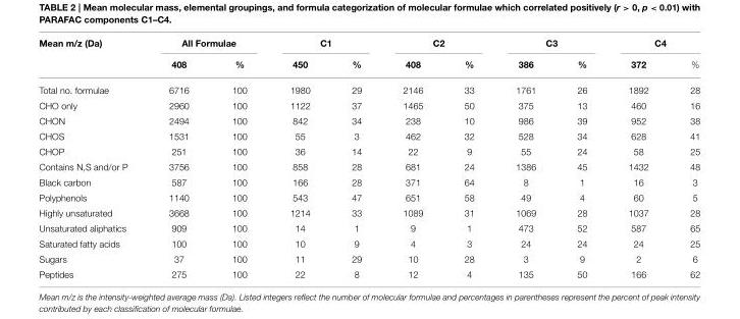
<table><thead><tr><td rowspan="2">Mean m/z (Da)</td><td colspan="2">All Formulae</td><td colspan="2">C1</td><td colspan="2">C2</td><td colspan="2">C3</td><td colspan="2">C4</td></tr><tr><td>408</td><td>%</td><td>450</td><td>%</td><td>408</td><td>%</td><td>386</td><td>%</td><td>372</td><td>%</td></tr></thead><tbody><tr><td>Total no. formulae</td><td>6716</td><td>100</td><td>1980</td><td>29</td><td>2146</td><td>33</td><td>1761</td><td>26</td><td>1892</td><td>28</td></tr><tr><td>CHO only</td><td>2960</td><td>100</td><td>1122</td><td>37</td><td>1465</td><td>50</td><td>375</td><td>13</td><td>460</td><td>16</td></tr><tr><td>CHON</td><td>2494</td><td>100</td><td>842</td><td>34</td><td>238</td><td>10</td><td>986</td><td>39</td><td>952</td><td>38</td></tr><tr><td>CHOS</td><td>1531</td><td>100</td><td>55</td><td>3</td><td>462</td><td>32</td><td>528</td><td>34</td><td>628</td><td>41</td></tr><tr><td>CHOP</td><td>251</td><td>100</td><td>36</td><td>14</td><td>22</td><td>9</td><td>55</td><td>24</td><td>58</td><td>25</td></tr><tr><td>Contains N,S and/or P</td><td>3756</td><td>100</td><td>858</td><td>28</td><td>681</td><td>24</td><td>1386</td><td>45</td><td>1432</td><td>48</td></tr><tr><td>Black carbon</td><td>587</td><td>100</td><td>166</td><td>28</td><td>371</td><td>64</td><td>8</td><td>1</td><td>16</td><td>3</td></tr><tr><td>Polyphenols</td><td>1140</td><td>100</td><td>543</td><td>47</td><td>651</td><td>58</td><td>49</td><td>4</td><td>60</td><td>5</td></tr><tr><td>Highly unsaturated</td><td>3668</td><td>100</td><td>1214</td><td>33</td><td>1089</td><td>31</td><td>1069</td><td>28</td><td>1037</td><td>28</td></tr><tr><td>Unsaturated aliphatics</td><td>909</td><td>100</td><td>14</td><td>1</td><td>9</td><td>1</td><td>473</td><td>52</td><td>587</td><td>65</td></tr><tr><td>Saturated fatty acids</td><td>100</td><td>100</td><td>10</td><td>9</td><td>4</td><td>3</td><td>24</td><td>24</td><td>24</td><td>25</td></tr><tr><td>Sugars</td><td>37</td><td>100</td><td>11</td><td>29</td><td>10</td><td>28</td><td>3</td><td>9</td><td>2</td><td>6</td></tr><tr><td>Peptides</td><td>275</td><td>100</td><td>22</td><td>8</td><td>12</td><td>4</td><td>135</td><td>50</td><td>166</td><td>62</td></tr></tbody></table>